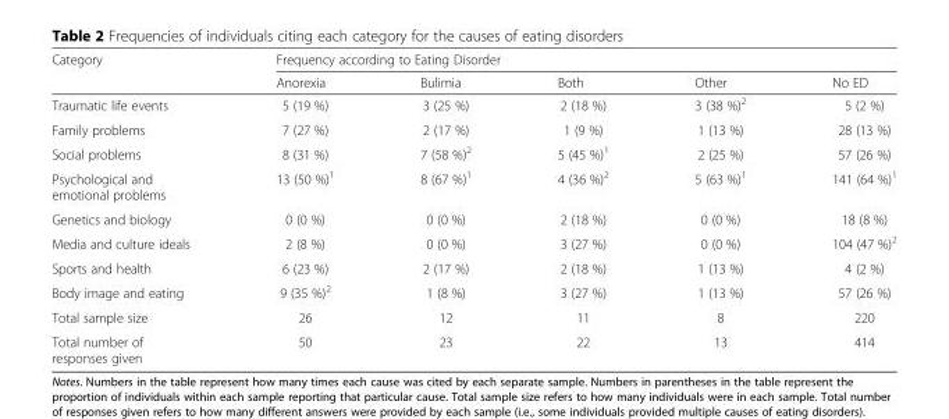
<table><thead><tr><td rowspan="2">Category</td><td colspan="5">Frequency according to Eating Disorder</td></tr><tr><td>Anorexia</td><td>Bulimia</td><td>Both</td><td>Other</td><td>No ED</td></tr></thead><tbody><tr><td>Traumatic life events</td><td>5 (19 %)</td><td>3 (25 %)</td><td>2 (18 %)</td><td>3 (38 %)<sup>2</sup></td><td>5 (2 %)</td></tr><tr><td>Family problems</td><td>7 (27 %)</td><td>2 (17 %)</td><td>1 (9 %)</td><td>1 (13 %)</td><td>28 (13 %)</td></tr><tr><td>Social problems</td><td>8 (31 %)</td><td>7 (58 %)<sup>2</sup></td><td>5 (45 %)<sup>1</sup></td><td>2 (25 %)</td><td>57 (26 %)</td></tr><tr><td>Psychological and emotional problems</td><td>13 (50 %)<sup>1</sup></td><td>8 (67 %)<sup>1</sup></td><td>4 (36 %)<sup>2</sup></td><td>5 (63 %)<sup>1</sup></td><td>141 (64 %)<sup>1</sup></td></tr><tr><td>Genetics and biology</td><td>0 (0 %)</td><td>0 (0 %)</td><td>2 (18 %)</td><td>0 (0 %)</td><td>18 (8 %)</td></tr><tr><td>Media and culture ideals</td><td>2 (8 %)</td><td>0 (0 %)</td><td>3 (27 %)</td><td>0 (0 %)</td><td>104 (47 %)<sup>2</sup></td></tr><tr><td>Sports and health</td><td>6 (23 %)</td><td>2 (17 %)</td><td>2 (18 %)</td><td>1 (13 %)</td><td>4 (2 %)</td></tr><tr><td>Body image and eating</td><td>9 (35 %)<sup>2</sup></td><td>1 (8 %)</td><td>3 (27 %)</td><td>1 (13 %)</td><td>57 (26 %)</td></tr><tr><td>Total sample size</td><td>26</td><td>12</td><td>11</td><td>8</td><td>220</td></tr><tr><td>Total number of responses given</td><td>50</td><td>23</td><td>22</td><td>13</td><td>414</td></tr></tbody></table>